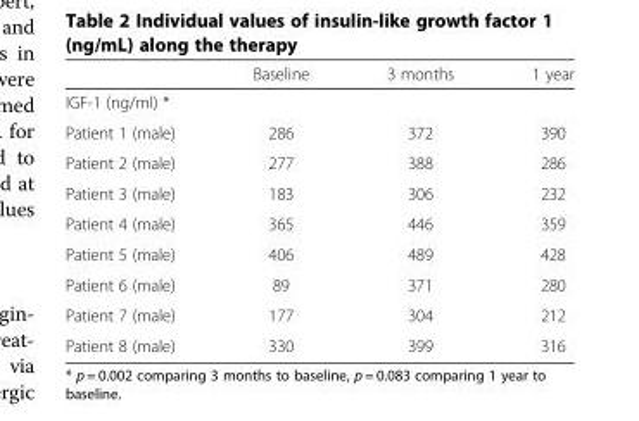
<table><thead><tr><td></td><td>Baseline</td><td>3 months</td><td>1 year</td></tr></thead><tbody><tr><td colspan="4">IGF-1 (ng/ml) *</td></tr><tr><td>Patient 1 (male)</td><td>286</td><td>372</td><td>390</td></tr><tr><td>Patient 2 (male)</td><td>277</td><td>388</td><td>286</td></tr><tr><td>Patient 3 (male)</td><td>183</td><td>306</td><td>232</td></tr><tr><td>Patient 4 (male)</td><td>365</td><td>446</td><td>359</td></tr><tr><td>Patient 5 (male)</td><td>406</td><td>489</td><td>428</td></tr><tr><td>Patient 6 (male)</td><td>89</td><td>371</td><td>280</td></tr><tr><td>Patient 7 (male)</td><td>177</td><td>304</td><td>212</td></tr><tr><td>Patient 8 (male)</td><td>330</td><td>399</td><td>316</td></tr></tbody></table>